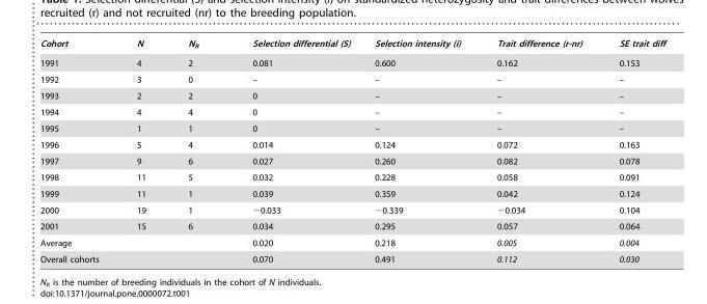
<table><thead><tr><td>Cohort</td><td>N</td><td>N<sub>R</sub></td><td>Selection differential (S)</td><td>Selection intensity (i)</td><td>Trait difference (r-nr)</td><td>SE trait diff</td></tr></thead><tbody><tr><td>1991</td><td>4</td><td>2</td><td>0.081</td><td>0.600</td><td>0.162</td><td>0.153</td></tr><tr><td>1992</td><td>3</td><td>0</td><td>–</td><td>–</td><td>–</td><td>–</td></tr><tr><td>1993</td><td>2</td><td>2</td><td>0</td><td>–</td><td>–</td><td>–</td></tr><tr><td>1994</td><td>4</td><td>4</td><td>0</td><td>–</td><td>–</td><td>–</td></tr><tr><td>1995</td><td>1</td><td>1</td><td>0</td><td>–</td><td>–</td><td>–</td></tr><tr><td>1996</td><td>5</td><td>4</td><td>0.014</td><td>0.124</td><td>0.072</td><td>0.163</td></tr><tr><td>1997</td><td>9</td><td>6</td><td>0.027</td><td>0.260</td><td>0.082</td><td>0.078</td></tr><tr><td>1998</td><td>11</td><td>5</td><td>0.032</td><td>0.228</td><td>0.058</td><td>0.091</td></tr><tr><td>1999</td><td>11</td><td>1</td><td>0.039</td><td>0.359</td><td>0.042</td><td>0.124</td></tr><tr><td>2000</td><td>19</td><td>1</td><td>−0.033</td><td>−0.339</td><td>−0.034</td><td>0.104</td></tr><tr><td>2001</td><td>15</td><td>6</td><td>0.034</td><td>0.295</td><td>0.057</td><td>0.064</td></tr><tr><td>Average</td><td></td><td></td><td>0.020</td><td>0.218</td><td>0.005</td><td>0.004</td></tr><tr><td>Overall cohorts</td><td></td><td></td><td>0.070</td><td>0.491</td><td>0.112</td><td>0.030</td></tr></tbody></table>